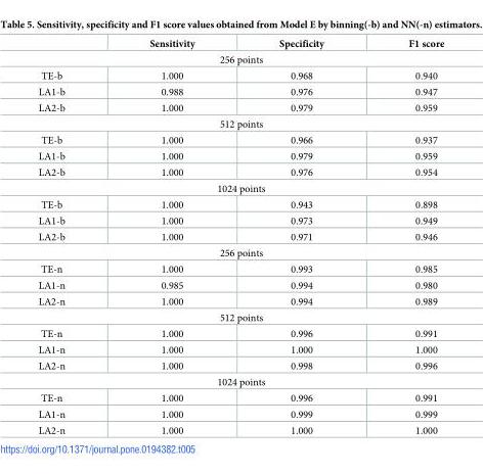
<table><thead><tr><td></td><td>Sensitivity</td><td>Specificity</td><td>F1 score</td></tr></thead><tbody><tr><td colspan="4">256 points</td></tr><tr><td>TE-b</td><td>1.000</td><td>0.968</td><td>0.940</td></tr><tr><td>LA1-b</td><td>0.988</td><td>0.976</td><td>0.947</td></tr><tr><td>LA2-b</td><td>1.000</td><td>0.979</td><td>0.959</td></tr><tr><td colspan="4">512 points</td></tr><tr><td>TE-b</td><td>1.000</td><td>0.966</td><td>0.937</td></tr><tr><td>LA1-b</td><td>1.000</td><td>0.979</td><td>0.959</td></tr><tr><td>LA2-b</td><td>1.000</td><td>0.976</td><td>0.954</td></tr><tr><td colspan="4">1024 points</td></tr><tr><td>TE-b</td><td>1.000</td><td>0.943</td><td>0.898</td></tr><tr><td>LA1-b</td><td>1.000</td><td>0.973</td><td>0.949</td></tr><tr><td>LA2-b</td><td>1.000</td><td>0.971</td><td>0.946</td></tr><tr><td colspan="4">256 points</td></tr><tr><td>TE-n</td><td>1.000</td><td>0.993</td><td>0.985</td></tr><tr><td>LA1-n</td><td>0.985</td><td>0.994</td><td>0.980</td></tr><tr><td>LA2-n</td><td>1.000</td><td>0.994</td><td>0.989</td></tr><tr><td colspan="4">512 points</td></tr><tr><td>TE-n</td><td>1.000</td><td>0.996</td><td>0.991</td></tr><tr><td>LA1-n</td><td>1.000</td><td>1.000</td><td>1.000</td></tr><tr><td>LA2-n</td><td>1.000</td><td>0.998</td><td>0.996</td></tr><tr><td colspan="4">1024 points</td></tr><tr><td>TE-n</td><td>1.000</td><td>0.996</td><td>0.991</td></tr><tr><td>LA1-n</td><td>1.000</td><td>0.999</td><td>0.999</td></tr><tr><td>LA2-n</td><td>1.000</td><td>1.000</td><td>1.000</td></tr></tbody></table>